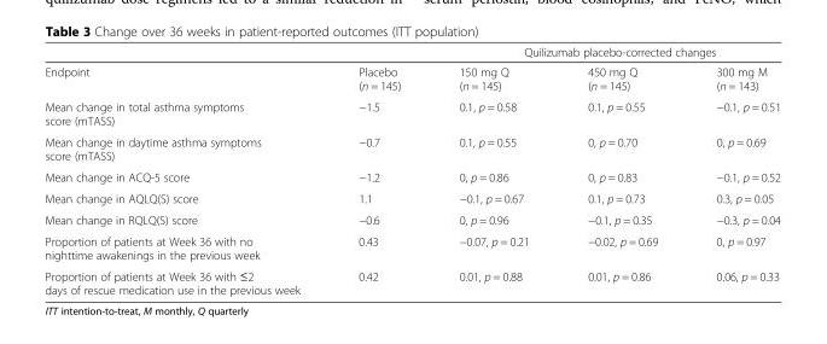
<table><thead><tr><td rowspan="2">Endpoint</td><td rowspan="2">Placebo (n = 145)</td><td colspan="3">Quilizumab placebo-corrected changes</td></tr><tr><td>150 mg Q (n = 145)</td><td>450 mg Q (n = 145)</td><td>300 mg M (n = 143)</td></tr></thead><tbody><tr><td>Mean change in total asthma symptoms score (mTASS)</td><td>−1.5</td><td>0.1, p = 0.58</td><td>0.1, p = 0.55</td><td>−0.1, p = 0.51</td></tr><tr><td>Mean change in daytime asthma symptoms score (mTASS)</td><td>−0.7</td><td>0.1, p = 0.55</td><td>0, p = 0.70</td><td>0, p = 0.69</td></tr><tr><td>Mean change in ACQ-5 score</td><td>−1.2</td><td>0, p = 0.86</td><td>0, p = 0.83</td><td>−0.1, p = 0.52</td></tr><tr><td>Mean change in AQLQ(S) score</td><td>1.1</td><td>−0.1, p = 0.67</td><td>0.1, p = 0.73</td><td>0.3, p = 0.05</td></tr><tr><td>Mean change in RQLQ(S) score</td><td>−0.6</td><td>0, p = 0.96</td><td>−0.1, p = 0.35</td><td>−0.3, p = 0.04</td></tr><tr><td>Proportion of patients at Week 36 with no nighttime awakenings in the previous week</td><td>0.43</td><td>−0.07, p = 0.21</td><td>−0.02, p = 0.69</td><td>0, p = 0.97</td></tr><tr><td>Proportion of patients at Week 36 with ≤2 days of rescue medication use in the previous week</td><td>0.42</td><td>0.01, p = 0.88</td><td>0.01, p = 0.86</td><td>0.06, p = 0.33</td></tr></tbody></table>